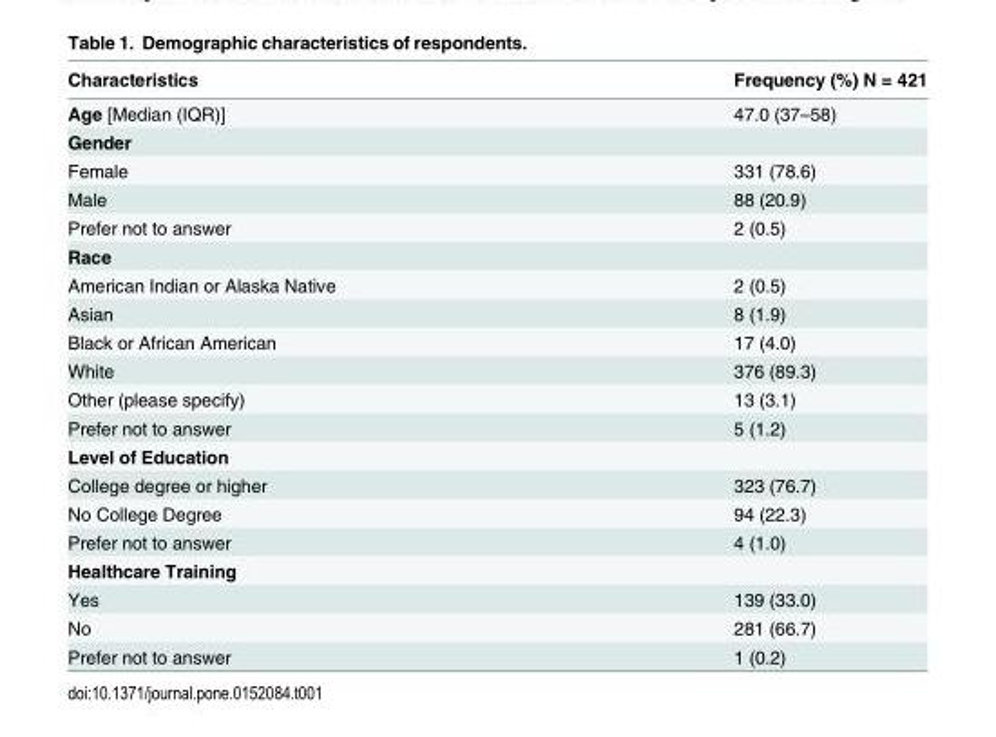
<table><thead><tr><td>Characteristics</td><td>Frequency (%) N = 421</td></tr></thead><tbody><tr><td>Age [Median (IQR)]</td><td>47.0 (37–58)</td></tr><tr><td colspan="2">Gender</td></tr><tr><td>Female</td><td>331 (78.6)</td></tr><tr><td>Male</td><td>88 (20.9)</td></tr><tr><td>Prefer not to answer</td><td>2 (0.5)</td></tr><tr><td colspan="2">Race</td></tr><tr><td>American Indian or Alaska Native</td><td>2 (0.5)</td></tr><tr><td>Asian</td><td>8 (1.9)</td></tr><tr><td>Black or African American</td><td>17 (4.0)</td></tr><tr><td>White</td><td>376 (89.3)</td></tr><tr><td>Other (please specify)</td><td>13 (3.1)</td></tr><tr><td>Prefer not to answer</td><td>5 (1.2)</td></tr><tr><td colspan="2">Level of Education</td></tr><tr><td>College degree or higher</td><td>323 (76.7)</td></tr><tr><td>No College Degree</td><td>94 (22.3)</td></tr><tr><td>Prefer not to answer</td><td>4 (1.0)</td></tr><tr><td colspan="2">Healthcare Training</td></tr><tr><td>Yes</td><td>139 (33.0)</td></tr><tr><td>No</td><td>281 (66.7)</td></tr><tr><td>Prefer not to answer</td><td>1 (0.2)</td></tr></tbody></table>